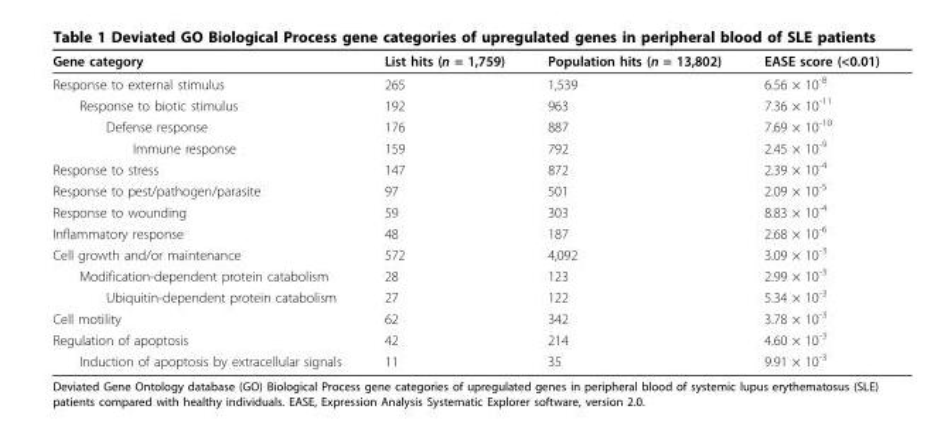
<table><thead><tr><td>Gene category</td><td>List hits (n = 1,759)</td><td>Population hits (n = 13,802)</td><td>EASE score (&lt;0.01)</td></tr></thead><tbody><tr><td>Response to external stimulus</td><td>265</td><td>1,539</td><td>6.56 × 10<sup>-8</sup></td></tr><tr><td>Response to biotic stimulus</td><td>192</td><td>963</td><td>7.36 × 10<sup>-11</sup></td></tr><tr><td>Defense response</td><td>176</td><td>887</td><td>7.69 × 10<sup>-10</sup></td></tr><tr><td>Immune response</td><td>159</td><td>792</td><td>2.45 × 10<sup>-9</sup></td></tr><tr><td>Response to stress</td><td>147</td><td>872</td><td>2.39 × 10<sup>-4</sup></td></tr><tr><td>Response to pest/pathogen/parasite</td><td>97</td><td>501</td><td>2.09 × 10<sup>-5</sup></td></tr><tr><td>Response to wounding</td><td>59</td><td>303</td><td>8.83 × 10<sup>-4</sup></td></tr><tr><td>Inflammatory response</td><td>48</td><td>187</td><td>2.68 × 10<sup>-6</sup></td></tr><tr><td>Cell growth and/or maintenance</td><td>572</td><td>4,092</td><td>3.09 × 10<sup>-3</sup></td></tr><tr><td>Modification-dependent protein catabolism</td><td>28</td><td>123</td><td>2.99 × 10<sup>-3</sup></td></tr><tr><td>Ubiquitin-dependent protein catabolism</td><td>27</td><td>122</td><td>5.34 × 10<sup>-3</sup></td></tr><tr><td>Cell motility</td><td>62</td><td>342</td><td>3.78 × 10<sup>-3</sup></td></tr><tr><td>Regulation of apoptosis</td><td>42</td><td>214</td><td>4.60 × 10<sup>-3</sup></td></tr><tr><td>Induction of apoptosis by extracellular signals</td><td>11</td><td>35</td><td>9.91 × 10<sup>-3</sup></td></tr></tbody></table>